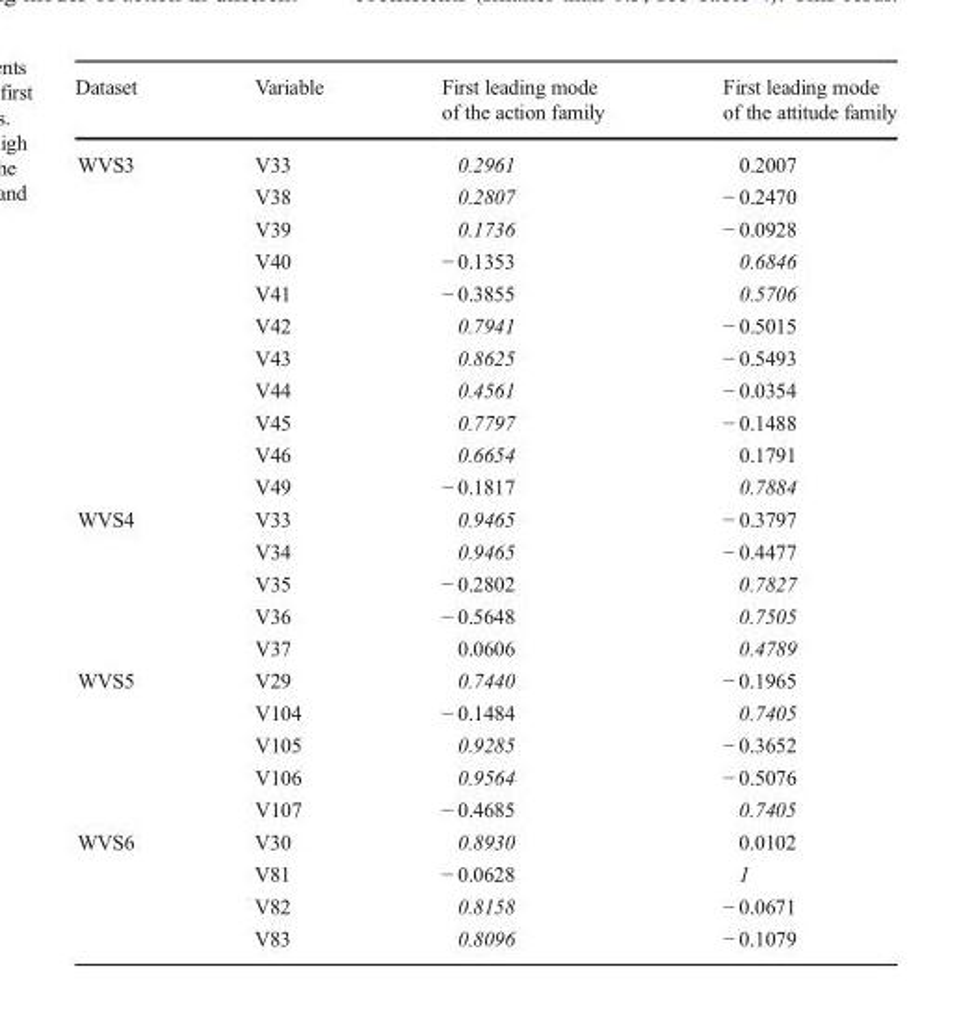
<table><thead><tr><td>Dataset</td><td>Variable</td><td>First leading mode of the action family</td><td>First leading mode of the attitude family</td></tr></thead><tbody><tr><td rowspan="11">WVS3</td><td>V33</td><td>0.2961</td><td>0.2007</td></tr><tr><td>V38</td><td>0.2807</td><td>− 0.2470</td></tr><tr><td>V39</td><td>0.1736</td><td>− 0.0928</td></tr><tr><td>V40</td><td>− 0.1353</td><td>0.6846</td></tr><tr><td>V41</td><td>− 0.3855</td><td>0.5706</td></tr><tr><td>V42</td><td>0.7941</td><td>− 0.5015</td></tr><tr><td>V43</td><td>0.8625</td><td>− 0.5493</td></tr><tr><td>V44</td><td>0.4561</td><td>− 0.0354</td></tr><tr><td>V45</td><td>0.7797</td><td>− 0.1488</td></tr><tr><td>V46</td><td>0.6654</td><td>0.1791</td></tr><tr><td>V49</td><td>− 0.1817</td><td>0.7884</td></tr><tr><td rowspan="5">WVS4</td><td>V33</td><td>0.9465</td><td>− 0.3797</td></tr><tr><td>V34</td><td>0.9465</td><td>− 0.4477</td></tr><tr><td>V35</td><td>− 0.2802</td><td>0.7827</td></tr><tr><td>V36</td><td>− 0.5648</td><td>0.7505</td></tr><tr><td>V37</td><td>0.0606</td><td>0.4789</td></tr><tr><td rowspan="5">WVS5</td><td>V29</td><td>0.7440</td><td>− 0.1965</td></tr><tr><td>V104</td><td>− 0.1484</td><td>0.7405</td></tr><tr><td>V105</td><td>0.9285</td><td>− 0.3652</td></tr><tr><td>V106</td><td>0.9564</td><td>− 0.5076</td></tr><tr><td>V107</td><td>− 0.4685</td><td>0.7405</td></tr><tr><td rowspan="4">WVS6</td><td>V30</td><td>0.8930</td><td>0.0102</td></tr><tr><td>V81</td><td>− 0.0628</td><td>1</td></tr><tr><td>V82</td><td>0.8158</td><td>− 0.0671</td></tr><tr><td>V83</td><td>0.8096</td><td>− 0.1079</td></tr></tbody></table>